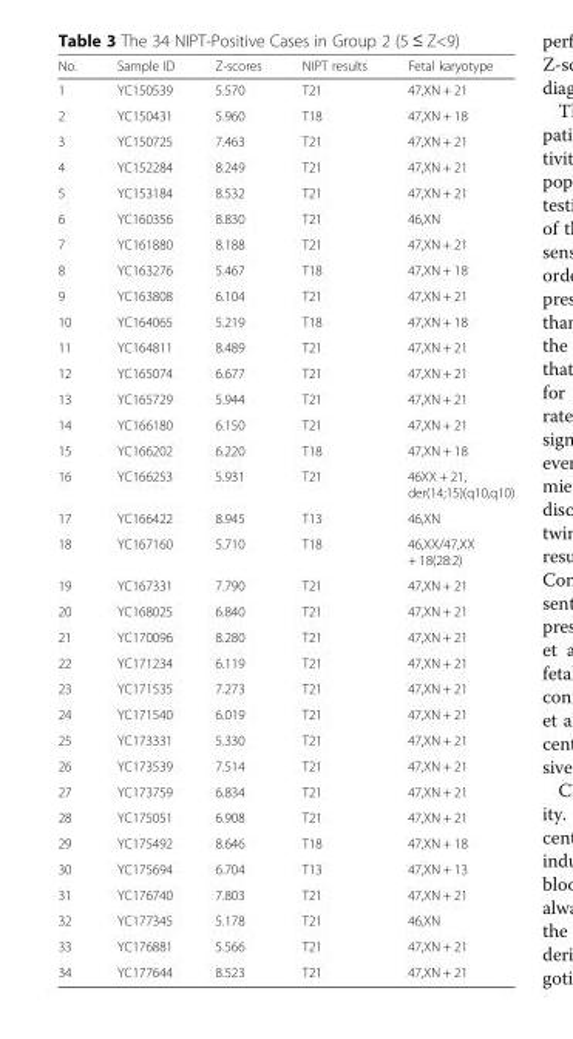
<table><thead><tr><td>No.</td><td>Sample ID</td><td>Z-scores</td><td>NIPT results</td><td>Fetal karyotype</td></tr></thead><tbody><tr><td>1</td><td>YC150539</td><td>5.570</td><td>T21</td><td>47,XN + 21</td></tr><tr><td>2</td><td>YC150431</td><td>5.960</td><td>T18</td><td>47,XN + 18</td></tr><tr><td>3</td><td>YC150725</td><td>7.463</td><td>T21</td><td>47,XN + 21</td></tr><tr><td>4</td><td>YC152284</td><td>8.249</td><td>T21</td><td>47,XN + 21</td></tr><tr><td>5</td><td>YC153184</td><td>8.532</td><td>T21</td><td>47,XN + 21</td></tr><tr><td>6</td><td>YC160356</td><td>8.830</td><td>T21</td><td>46,XN</td></tr><tr><td>7</td><td>YC161880</td><td>8.188</td><td>T21</td><td>47,XN + 21</td></tr><tr><td>8</td><td>YC163276</td><td>5.467</td><td>T18</td><td>47,XN + 18</td></tr><tr><td>9</td><td>YC163808</td><td>6.104</td><td>T21</td><td>47,XN + 21</td></tr><tr><td>10</td><td>YC164065</td><td>5.219</td><td>T18</td><td>47,XN + 18</td></tr><tr><td>11</td><td>YC164811</td><td>8.489</td><td>T21</td><td>47,XN + 21</td></tr><tr><td>12</td><td>YC165074</td><td>6.677</td><td>T21</td><td>47,XN + 21</td></tr><tr><td>13</td><td>YC165729</td><td>5.944</td><td>T21</td><td>47,XN + 21</td></tr><tr><td>14</td><td>YC166180</td><td>6.150</td><td>T21</td><td>47,XN + 21</td></tr><tr><td>15</td><td>YC166202</td><td>6.220</td><td>T18</td><td>47,XN + 18</td></tr><tr><td>16</td><td>YC166253</td><td>5.931</td><td>T21</td><td>46XX + 21, der(14;15)(q10,q10)</td></tr><tr><td>17</td><td>YC166422</td><td>8.945</td><td>T13</td><td>46,XN</td></tr><tr><td>18</td><td>YC167160</td><td>5.710</td><td>T18</td><td>46,XX/47,XX + 18(28:2)</td></tr><tr><td>19</td><td>YC167331</td><td>7.790</td><td>T21</td><td>47,XN + 21</td></tr><tr><td>20</td><td>YC168025</td><td>6.840</td><td>T21</td><td>47,XN + 21</td></tr><tr><td>21</td><td>YC170096</td><td>8.280</td><td>T21</td><td>47,XN + 21</td></tr><tr><td>22</td><td>YC171234</td><td>6.119</td><td>T21</td><td>47,XN + 21</td></tr><tr><td>23</td><td>YC171535</td><td>7.273</td><td>T21</td><td>47,XN + 21</td></tr><tr><td>24</td><td>YC171540</td><td>6.019</td><td>T21</td><td>47,XN + 21</td></tr><tr><td>25</td><td>YC173331</td><td>5.330</td><td>T21</td><td>47,XN + 21</td></tr><tr><td>26</td><td>YC173539</td><td>7.514</td><td>T21</td><td>47,XN + 21</td></tr><tr><td>27</td><td>YC173759</td><td>6.834</td><td>T21</td><td>47,XN + 21</td></tr><tr><td>28</td><td>YC175051</td><td>6.908</td><td>T21</td><td>47,XN + 21</td></tr><tr><td>29</td><td>YC175492</td><td>8.646</td><td>T18</td><td>47,XN + 18</td></tr><tr><td>30</td><td>YC175694</td><td>6.704</td><td>T13</td><td>47,XN + 13</td></tr><tr><td>31</td><td>YC176740</td><td>7.803</td><td>T21</td><td>47,XN + 21</td></tr><tr><td>32</td><td>YC177345</td><td>5.178</td><td>T21</td><td>46,XN</td></tr><tr><td>33</td><td>YC176881</td><td>5.566</td><td>T21</td><td>47,XN + 21</td></tr><tr><td>34</td><td>YC177644</td><td>8.523</td><td>T21</td><td>47,XN + 21</td></tr></tbody></table>